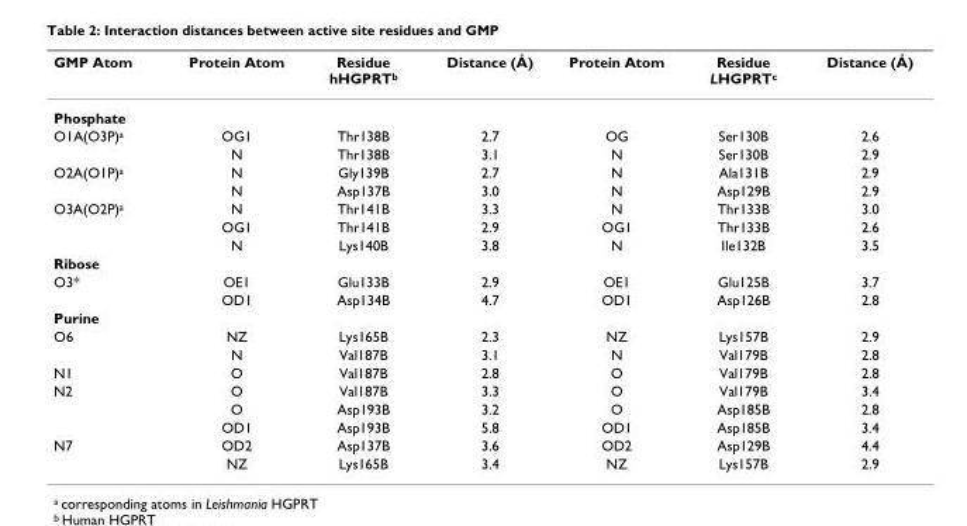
<table><thead><tr><td>GMP Atom</td><td>Protein Atom</td><td>Residue hHGPRT<sup>b</sup></td><td>Distance (Å)</td><td>Protein Atom</td><td>Residue LHGPRT<sup>c</sup></td><td>Distance (Å)</td></tr></thead><tbody><tr><td colspan="7">Phosphate</td></tr><tr><td rowspan="2">O1A(O3P)<sup>a</sup></td><td>OG1</td><td>Thr138B</td><td>2.7</td><td>OG</td><td>Ser130B</td><td>2.6</td></tr><tr><td>N</td><td>Thr138B</td><td>3.1</td><td>N</td><td>Ser130B</td><td>2.9</td></tr><tr><td rowspan="2">O2A(O1P)<sup>a</sup></td><td>N</td><td>Gly139B</td><td>2.7</td><td>N</td><td>Ala131B</td><td>2.9</td></tr><tr><td>N</td><td>Asp137B</td><td>3.0</td><td>N</td><td>Asp129B</td><td>2.9</td></tr><tr><td rowspan="3">O3A(O2P)<sup>a</sup></td><td>N</td><td>Thr141B</td><td>3.3</td><td>N</td><td>Thr133B</td><td>3.0</td></tr><tr><td>OG1</td><td>Thr141B</td><td>2.9</td><td>OG1</td><td>Thr133B</td><td>2.6</td></tr><tr><td>N</td><td>Lys140B</td><td>3.8</td><td>N</td><td>Ile132B</td><td>3.5</td></tr><tr><td colspan="7">Ribose</td></tr><tr><td rowspan="2">O3*</td><td>OE1</td><td>Glu133B</td><td>2.9</td><td>OE1</td><td>Glu125B</td><td>3.7</td></tr><tr><td>OD1</td><td>Asp134B</td><td>4.7</td><td>OD1</td><td>Asp126B</td><td>2.8</td></tr><tr><td colspan="7">Purine</td></tr><tr><td rowspan="2">O6</td><td>NZ</td><td>Lys165B</td><td>2.3</td><td>NZ</td><td>Lys157B</td><td>2.9</td></tr><tr><td>N</td><td>Val187B</td><td>3.1</td><td>N</td><td>Val179B</td><td>2.8</td></tr><tr><td>N1</td><td>O</td><td>Val187B</td><td>2.8</td><td>O</td><td>Val179B</td><td>2.8</td></tr><tr><td rowspan="3">N2</td><td>O</td><td>Val187B</td><td>3.3</td><td>O</td><td>Val179B</td><td>3.4</td></tr><tr><td>O</td><td>Asp193B</td><td>3.2</td><td>O</td><td>Asp185B</td><td>2.8</td></tr><tr><td>OD1</td><td>Asp193B</td><td>5.8</td><td>OD1</td><td>Asp185B</td><td>3.4</td></tr><tr><td rowspan="2">N7</td><td>OD2</td><td>Asp137B</td><td>3.6</td><td>OD2</td><td>Asp129B</td><td>4.4</td></tr><tr><td>NZ</td><td>Lys165B</td><td>3.4</td><td>NZ</td><td>Lys157B</td><td>2.9</td></tr></tbody></table>